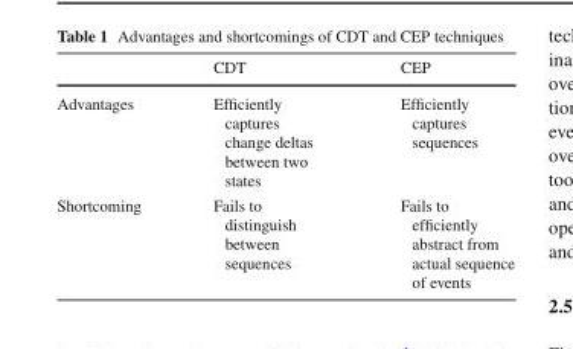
<table><thead><tr><td></td><td>CDT</td><td>CEP</td></tr></thead><tbody><tr><td>Advantages</td><td>Efficiently captures change deltas between two states</td><td>Efficiently captures sequences</td></tr><tr><td>Shortcoming</td><td>Fails to distinguish between sequences</td><td>Fails to efficiently abstract from actual sequence of events</td></tr></tbody></table>